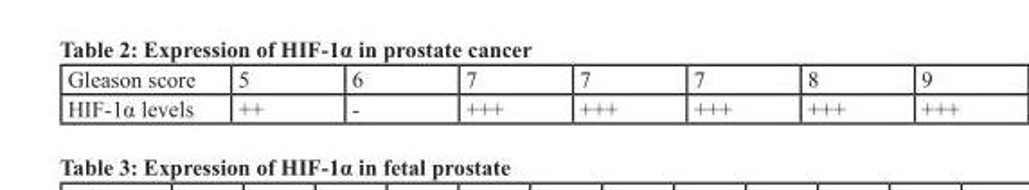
<table><tbody><tr><td>Gleason score</td><td>5</td><td>6</td><td>7</td><td>7</td><td>7</td><td>8</td><td>9</td></tr><tr><td>HIF-1α levels</td><td>++</td><td>-</td><td>+++</td><td>+++</td><td>+++</td><td>+++</td><td>+++</td></tr></tbody></table>